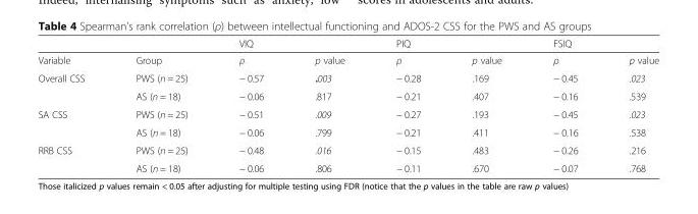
<table><thead><tr><td rowspan="2">Variable</td><td rowspan="2">Group</td><td colspan="2">VIQ</td><td colspan="2">PIQ</td><td colspan="2">FSIQ</td></tr><tr><td>ρ</td><td>p value</td><td>ρ</td><td>p value</td><td>ρ</td><td>p value</td></tr></thead><tbody><tr><td rowspan="2">Overall CSS</td><td>PWS (n = 25)</td><td>− 0.57</td><td>.003</td><td>− 0.28</td><td>.169</td><td>− 0.45</td><td>.023</td></tr><tr><td>AS (n = 18)</td><td>− 0.06</td><td>.817</td><td>− 0.21</td><td>.407</td><td>− 0.16</td><td>.539</td></tr><tr><td rowspan="2">SA CSS</td><td>PWS (n = 25)</td><td>− 0.51</td><td>.009</td><td>− 0.27</td><td>.193</td><td>− 0.45</td><td>.023</td></tr><tr><td>AS (n = 18)</td><td>− 0.06</td><td>.799</td><td>− 0.21</td><td>.411</td><td>− 0.16</td><td>.538</td></tr><tr><td rowspan="2">RRB CSS</td><td>PWS (n = 25)</td><td>− 0.48</td><td>.016</td><td>− 0.15</td><td>.483</td><td>− 0.26</td><td>.216</td></tr><tr><td>AS (n = 18)</td><td>− 0.06</td><td>.806</td><td>− 0.11</td><td>.670</td><td>− 0.07</td><td>.768</td></tr></tbody></table>